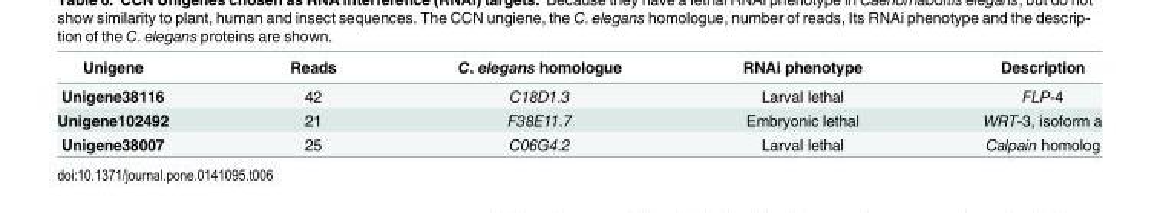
<table><thead><tr><td>Unigene</td><td>Reads</td><td>C. elegans homologue</td><td>RNAi phenotype</td><td>Description</td></tr></thead><tbody><tr><td>Unigene38116</td><td>42</td><td>C18D1.3</td><td>Larval lethal</td><td>FLP-4</td></tr><tr><td>Unigene102492</td><td>21</td><td>F38E11.7</td><td>Embryonic lethal</td><td>WRT-3, isoform a</td></tr><tr><td>Unigene38007</td><td>25</td><td>C06G4.2</td><td>Larval lethal</td><td>Calpain homolog</td></tr></tbody></table>